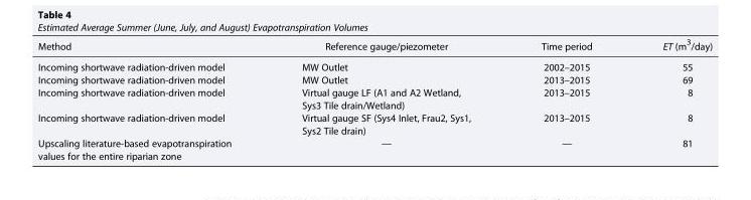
<table><thead><tr><td>Method</td><td>Reference gauge/piezometer</td><td>Time period</td><td>ET (m<sup>3</sup>/day)</td></tr></thead><tbody><tr><td>Incoming shortwave radiation-driven model</td><td>MW Outlet</td><td>2002–2015</td><td>55</td></tr><tr><td>Incoming shortwave radiation-driven model</td><td>MW Outlet</td><td>2013–2015</td><td>69</td></tr><tr><td>Incoming shortwave radiation-driven model</td><td>Virtual gauge LF (A1 and A2 Wetland, Sys3 Tile drain/Wetland)</td><td>2013–2015</td><td>8</td></tr><tr><td>Incoming shortwave radiation-driven model</td><td>Virtual gauge SF (Sys4 Inlet, Frau2, Sys1, Sys2 Tile drain)</td><td>2013–2015</td><td>8</td></tr><tr><td>Upscaling literature-based evapotranspiration values for the entire riparian zone</td><td>—</td><td>—</td><td>81</td></tr></tbody></table>